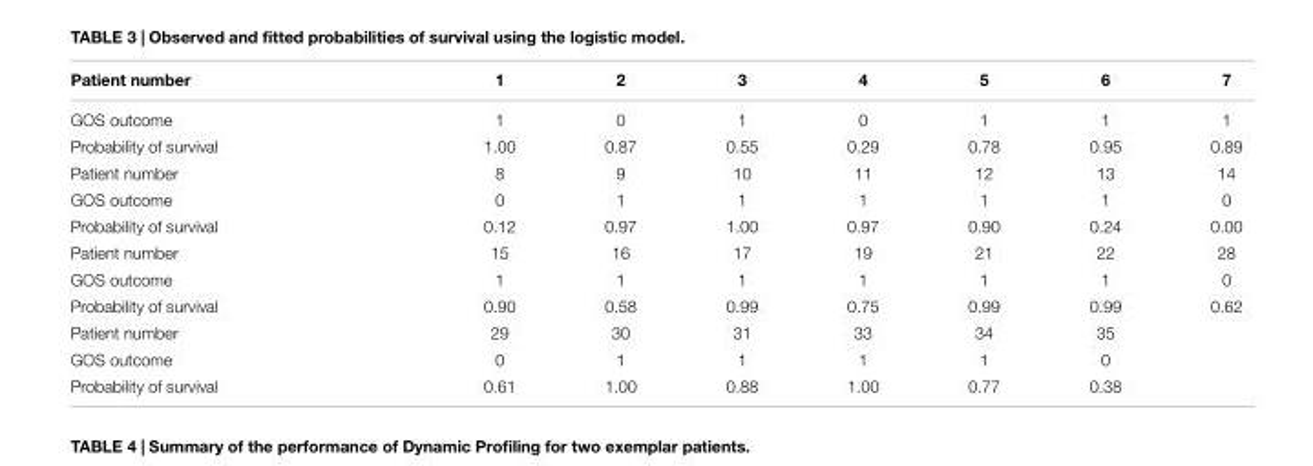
<table><thead><tr><td>Patient number</td><td>1</td><td>2</td><td>3</td><td>4</td><td>5</td><td>6</td><td>7</td></tr></thead><tbody><tr><td>GOS outcome</td><td>1</td><td>0</td><td>1</td><td>0</td><td>1</td><td>1</td><td>1</td></tr><tr><td>Probability of survival</td><td>1.00</td><td>0.87</td><td>0.55</td><td>0.29</td><td>0.78</td><td>0.95</td><td>0.89</td></tr><tr><td>Patient number</td><td>8</td><td>9</td><td>10</td><td>11</td><td>12</td><td>13</td><td>14</td></tr><tr><td>GOS outcome</td><td>0</td><td>1</td><td>1</td><td>1</td><td>1</td><td>1</td><td>0</td></tr><tr><td>Probability of survival</td><td>0.12</td><td>0.97</td><td>1.00</td><td>0.97</td><td>0.90</td><td>0.24</td><td>0.00</td></tr><tr><td>Patient number</td><td>15</td><td>16</td><td>17</td><td>19</td><td>21</td><td>22</td><td>28</td></tr><tr><td>GOS outcome</td><td>1</td><td>1</td><td>1</td><td>1</td><td>1</td><td>1</td><td>0</td></tr><tr><td>Probability of survival</td><td>0.90</td><td>0.58</td><td>0.99</td><td>0.75</td><td>0.99</td><td>0.99</td><td>0.62</td></tr><tr><td>Patient number</td><td>29</td><td>30</td><td>31</td><td>33</td><td>34</td><td>35</td><td></td></tr><tr><td>GOS outcome</td><td>0</td><td>1</td><td>1</td><td>1</td><td>1</td><td>0</td><td></td></tr><tr><td>Probability of survival</td><td>0.61</td><td>1.00</td><td>0.88</td><td>1.00</td><td>0.77</td><td>0.38</td><td></td></tr></tbody></table>